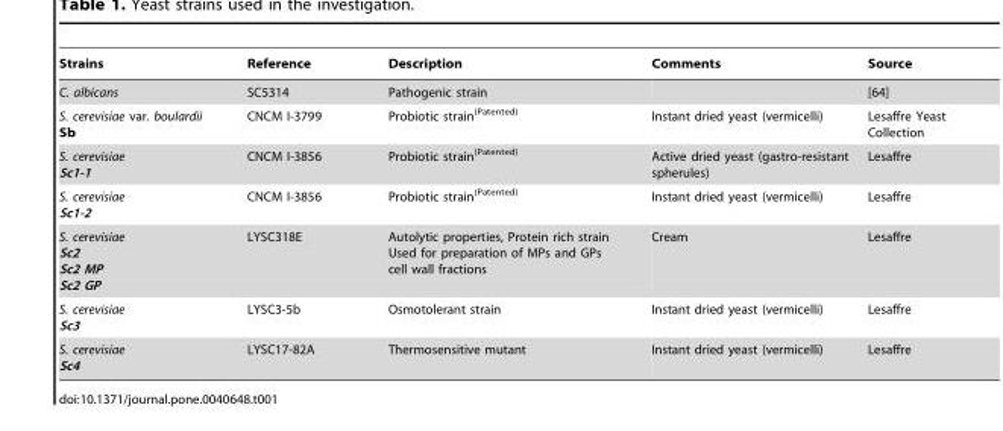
<table><thead><tr><td>Strains</td><td>Reference</td><td>Description</td><td>Comments</td><td>Source</td></tr></thead><tbody><tr><td>C. albicans</td><td>SC5314</td><td>Pathogenic strain</td><td></td><td>[64]</td></tr><tr><td>S. cerevisiae var. boulardii Sb</td><td>CNCM I-3799</td><td>Probiotic strain<sup>(Patented)</sup></td><td>Instant dried yeast (vermicelli)</td><td>Lesaffre Yeast Collection</td></tr><tr><td>S. cerevisiae Sc1-1</td><td>CNCM I-3856</td><td>Probiotic strain<sup>(Patented)</sup></td><td>Active dried yeast (gastro-resistant spherules)</td><td>Lesaffre</td></tr><tr><td>S. cerevisiae Sc1-2</td><td>CNCM I-3856</td><td>Probiotic strain<sup>(Patented)</sup></td><td>Instant dried yeast (vermicelli)</td><td>Lesaffre</td></tr><tr><td>S. cerevisiae Sc2 Sc2 MP Sc2 GP</td><td>LYSC318E</td><td>Autolytic properties, Protein rich strain Used for preparation of MPs and GPs cell wall fractions</td><td>Cream</td><td>Lesaffre</td></tr><tr><td>S. cerevisiae Sc3</td><td>LYSC3-5b</td><td>Osmotolerant strain</td><td>Instant dried yeast (vermicelli)</td><td>Lesaffre</td></tr><tr><td>S. cerevisiae Sc4</td><td>LYSC17-82A</td><td>Thermosensitive mutant</td><td>Instant dried yeast (vermicelli)</td><td>Lesaffre</td></tr></tbody></table>